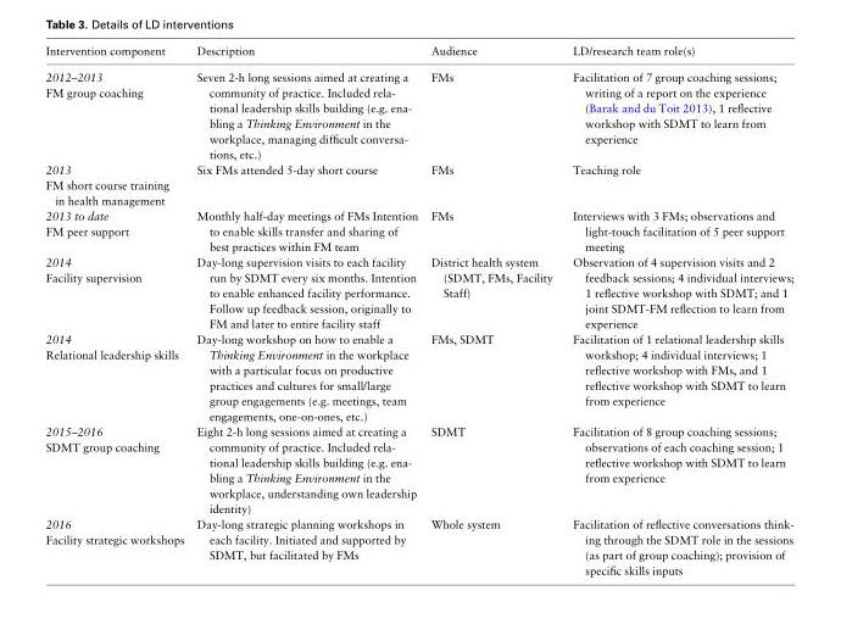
<table><thead><tr><td>Intervention component</td><td>Description</td><td>Audience</td><td>LD/research team role(s)</td></tr></thead><tbody><tr><td>2012–2013 FM group coaching</td><td>Seven 2-h long sessions aimed at creating a community of practice. Included rela- tional leadership skills building (e.g. ena- bling a Thinking Environment in the workplace, managing difficult conversa- tions, etc.)</td><td>FMs</td><td>Facilitation of 7 group coaching sessions; writing of a report on the experience (Barak and du Toit 2013), 1 reflective workshop with SDMT to learn from experience</td></tr><tr><td>2013 FM short course training in health management</td><td>Six FMs attended 5-day short course</td><td>FMs</td><td>Teaching role</td></tr><tr><td>2013 to date FM peer support</td><td>Monthly half-day meetings of FMs Intention to enable skills transfer and sharing of best practices within FM team</td><td>FMs</td><td>Interviews with 3 FMs; observations and light-touch facilitation of 5 peer support meeting</td></tr><tr><td>2014 Facility supervision</td><td>Day-long supervision visits to each facility run by SDMT every six months. Intention to enable enhanced facility performance. Follow up feedback session, originally to FM and later to entire facility staff</td><td>District health system (SDMT, FMs, Facility Staff)</td><td>Observation of 4 supervision visits and 2 feedback sessions; 4 individual interviews; 1 reflective workshop with SDMT; and 1 joint SDMT-FM reflection to learn from experience</td></tr><tr><td>2014 Relational leadership skills</td><td>Day-long workshop on how to enable a Thinking Environment in the workplace with a particular focus on productive practices and cultures for small/large group engagements (e.g. meetings, team engagements, one-on-ones, etc.)</td><td>FMs, SDMT</td><td>Facilitation of 1 relational leadership skills workshop; 4 individual interviews; 1 reflective workshop with FMs, and 1 reflective workshop with SDMT to learn from experience</td></tr><tr><td>2015–2016 SDMT group coaching</td><td>Eight 2-h long sessions aimed at creating a community of practice. Included rela- tional leadership skills building (e.g. ena- bling a Thinking Environment in the workplace, understanding own leadership identity)</td><td>SDMT</td><td>Facilitation of 8 group coaching sessions; observations of each coaching session; 1 reflective workshop with SDMT to learn from experience</td></tr><tr><td>2016 Facility strategic workshops</td><td>Day-long strategic planning workshops in each facility. Initiated and supported by SDMT, but facilitated by FMs</td><td>Whole system</td><td>Facilitation of reflective conversations think- ing through the SDMT role in the sessions (as part of group coaching); provision of specific skills inputs</td></tr></tbody></table>